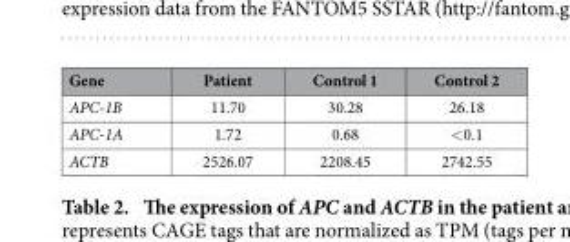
<table><thead><tr><td>Gene</td><td>Patient</td><td>Control 1</td><td>Control 2</td></tr></thead><tbody><tr><td>APC-1B</td><td>11.70</td><td>30.28</td><td>26.18</td></tr><tr><td>APC-1A</td><td>1.72</td><td>0.68</td><td>&lt; 0.1</td></tr><tr><td>ACTB</td><td>2526.07</td><td>2208.45</td><td>2742.55</td></tr></tbody></table>